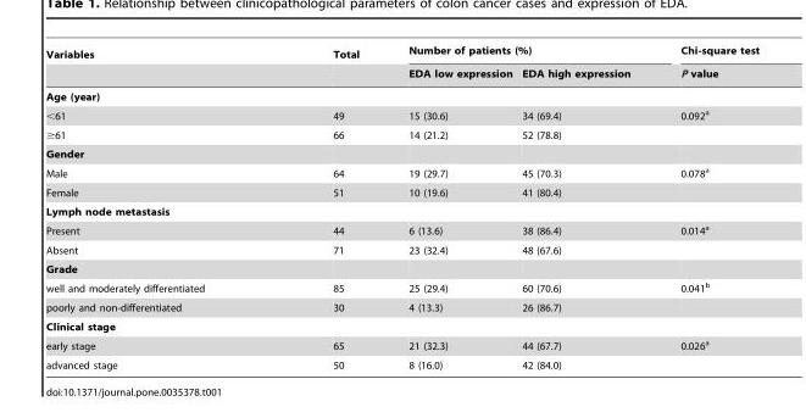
<table><thead><tr><td rowspan="2">Variables</td><td rowspan="2">Total</td><td colspan="2">Number of patients (%)</td><td rowspan="2">Chi-square test P value</td></tr><tr><td>EDA low expression</td><td>EDA high expression</td></tr></thead><tbody><tr><td colspan="5">Age (year)</td></tr><tr><td>&lt;61</td><td>49</td><td>15 (30.6)</td><td>34 (69.4)</td><td>0.092<sup>a</sup></td></tr><tr><td>≥61</td><td>66</td><td>14 (21.2)</td><td>52 (78.8)</td><td></td></tr><tr><td colspan="5">Gender</td></tr><tr><td>Male</td><td>64</td><td>19 (29.7)</td><td>45 (70.3)</td><td>0.078<sup>a</sup></td></tr><tr><td>Female</td><td>51</td><td>10 (19.6)</td><td>41 (80.4)</td><td></td></tr><tr><td colspan="5">Lymph node metastasis</td></tr><tr><td>Present</td><td>44</td><td>6 (13.6)</td><td>38 (86.4)</td><td>0.014<sup>a</sup></td></tr><tr><td>Absent</td><td>71</td><td>23 (32.4)</td><td>48 (67.6)</td><td></td></tr><tr><td colspan="5">Grade</td></tr><tr><td>well and moderately differentiated</td><td>85</td><td>25 (29.4)</td><td>60 (70.6)</td><td>0.041<sup>b</sup></td></tr><tr><td>poorly and non-differentiated</td><td>30</td><td>4 (13.3)</td><td>26 (86.7)</td><td></td></tr><tr><td colspan="5">Clinical stage</td></tr><tr><td>early stage</td><td>65</td><td>21 (32.3)</td><td>44 (67.7)</td><td>0.026<sup>a</sup></td></tr><tr><td>advanced stage</td><td>50</td><td>8 (16.0)</td><td>42 (84.0)</td><td></td></tr></tbody></table>